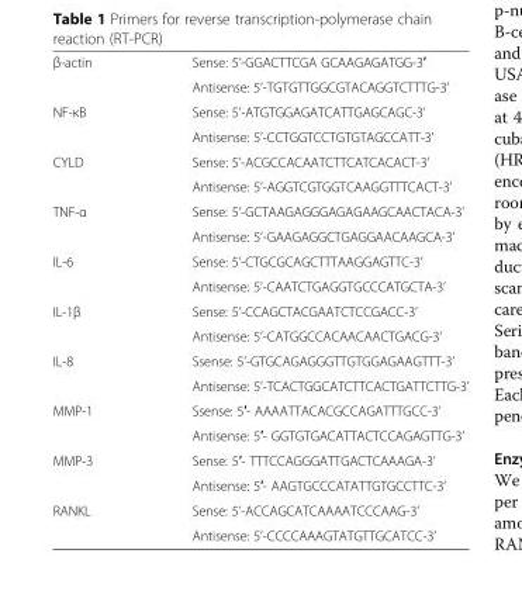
<table><tbody><tr><td rowspan="2">β-actin</td><td>Sense: 5’-GGACTTCGA GCAAGAGATGG-3′</td></tr><tr><td>Antisense: 5’-TGTGTTGGCGTACAGGTCTTTG-3’</td></tr><tr><td rowspan="2">NF-κB</td><td>Sense: 5’-ATGTGGAGATCATTGAGCAGC-3’</td></tr><tr><td>Antisense: 5’-CCTGGTCCTGTGTAGCCATT-3’</td></tr><tr><td rowspan="2">CYLD</td><td>Sense: 5’-ACGCCACAATCTTCATCACACT-3’</td></tr><tr><td>Antisense: 5’-AGGTCGTGGTCAAGGTTTCACT-3’</td></tr><tr><td rowspan="2">TNF-α</td><td>Sense: 5’-GCTAAGAGGGAGAGAAGCAACTACA-3’</td></tr><tr><td>Antisense: 5’-GAAGAGGCTGAGGAACAAGCA-3’</td></tr><tr><td rowspan="2">IL-6</td><td>Sense: 5’-CTGCGCAGCTTTAAGGAGTTC-3’</td></tr><tr><td>Antisense: 5’-CAATCTGAGGTGCCCATGCTA-3’</td></tr><tr><td rowspan="2">IL-1β</td><td>Sense: 5’-CCAGCTACGAATCTCCGACC-3’</td></tr><tr><td>Antisense: 5’-CATGGCCACAACAACTGACG-3’</td></tr><tr><td rowspan="2">IL-8</td><td>Ssense: 5’-GTGCAGAGGGTTGTGGAGAAGTTT-3’</td></tr><tr><td>Antisense: 5’-TCACTGGCATCTTCACTGATTCTTG-3’</td></tr><tr><td rowspan="2">MMP-1</td><td>Ssense: 5′- AAAATTACACGCCAGATTTGCC-3’</td></tr><tr><td>Antisense: 5′- GGTGTGACATTACTCCAGAGTTG-3’</td></tr><tr><td rowspan="2">MMP-3</td><td>Sense: 5′- TTTCCAGGGATTGACTCAAAGA-3’</td></tr><tr><td>Antisense: 5′- AAGTGCCCATATTGTGCCTTC-3’</td></tr><tr><td rowspan="2">RANKL</td><td>Sense: 5’-ACCAGCATCAAAATCCCAAG-3’</td></tr><tr><td>Antisense: 5’-CCCCAAAGTATGTTGCATCC-3’</td></tr></tbody></table>